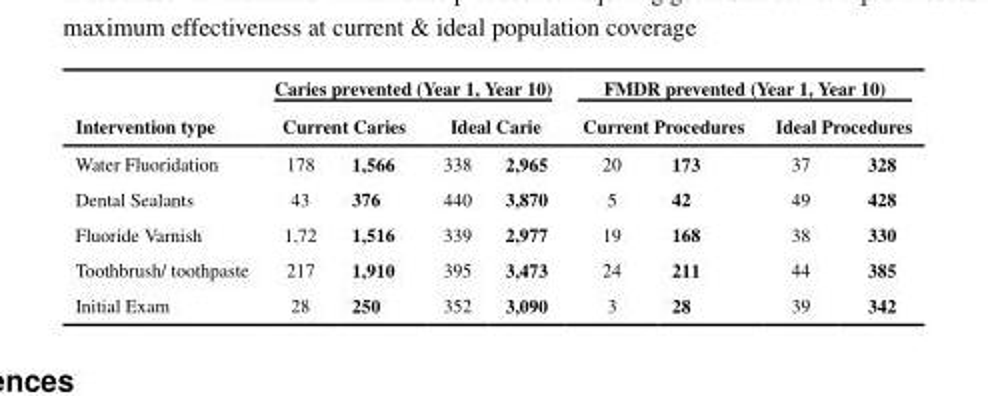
<table><thead><tr><td rowspan="3">Intervention type Water Fluoridation</td><td colspan="4">Caries prevented (Year 1, Year 10)</td><td colspan="4">FMDR prevented (Year 1, Year 10)</td></tr><tr><td colspan="2">Current Caries</td><td colspan="2">Ideal Carie</td><td colspan="2">Current Procedures</td><td colspan="2">Ideal Procedures</td></tr><tr><td>178</td><td>1,566</td><td>338</td><td>2,965</td><td>20</td><td>173</td><td>37</td><td>328</td></tr></thead><tbody><tr><td>Dental Sealants</td><td>43</td><td>376</td><td>440</td><td>3,870</td><td>5</td><td>42</td><td>49</td><td>428</td></tr><tr><td>Fluoride Varnish</td><td>1,72</td><td>1,516</td><td>339</td><td>2,977</td><td>19</td><td>168</td><td>38</td><td>330</td></tr><tr><td>Toothbrush/ toothpaste</td><td>217</td><td>1,910</td><td>395</td><td>3,473</td><td>24</td><td>211</td><td>44</td><td>385</td></tr><tr><td>Initial Exam</td><td>28</td><td>250</td><td>352</td><td>3,090</td><td>3</td><td>28</td><td>39</td><td>342</td></tr></tbody></table>